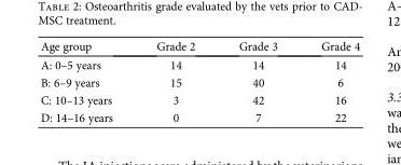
<table><thead><tr><td>Age group</td><td>Grade 2</td><td>Grade 3</td><td>Grade 4</td></tr></thead><tbody><tr><td>A: 0–5 years</td><td>14</td><td>14</td><td>14</td></tr><tr><td>B: 6–9 years</td><td>15</td><td>40</td><td>6</td></tr><tr><td>C: 10–13 years</td><td>3</td><td>42</td><td>16</td></tr><tr><td>D: 14–16 years</td><td>0</td><td>7</td><td>22</td></tr></tbody></table>